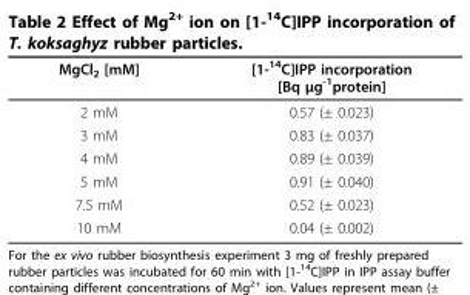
<table><thead><tr><td>MgCl<sub>2</sub> [mM]</td><td>[1-<sup>14</sup>C]IPP incorporation [Bq μg<sup>-1</sup>protein]</td></tr></thead><tbody><tr><td>2 mM</td><td>0.57 (± 0.023)</td></tr><tr><td>3 mM</td><td>0.83 (± 0.037)</td></tr><tr><td>4 mM</td><td>0.89 (± 0.039)</td></tr><tr><td>5 mM</td><td>0.91 (± 0.040)</td></tr><tr><td>7.5 mM</td><td>0.52 (± 0.023)</td></tr><tr><td>10 mM</td><td>0.04 (± 0.002)</td></tr></tbody></table>